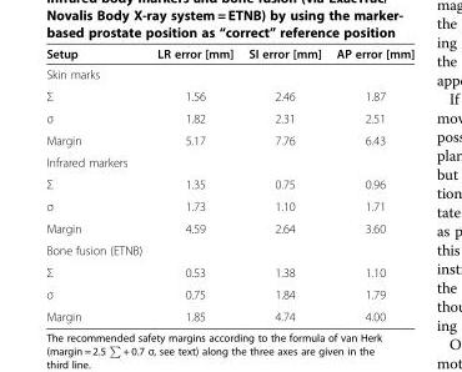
<table><thead><tr><td>Setup</td><td>LR error [mm]</td><td>SI error [mm]</td><td>AP error [mm]</td></tr></thead><tbody><tr><td colspan="4">Skin marks</td></tr><tr><td>Σ</td><td>1.56</td><td>2.46</td><td>1.87</td></tr><tr><td>σ</td><td>1.82</td><td>2.31</td><td>2.51</td></tr><tr><td>Margin</td><td>5.17</td><td>7.76</td><td>6.43</td></tr><tr><td colspan="4">Infrared markers</td></tr><tr><td>Σ</td><td>1.35</td><td>0.75</td><td>0.96</td></tr><tr><td>σ</td><td>1.73</td><td>1.10</td><td>1.71</td></tr><tr><td>Margin</td><td>4.59</td><td>2.64</td><td>3.60</td></tr><tr><td colspan="4">Bone fusion (ETNB)</td></tr><tr><td>Σ</td><td>0.53</td><td>1.38</td><td>1.10</td></tr><tr><td>σ</td><td>0.75</td><td>1.84</td><td>1.79</td></tr><tr><td>Margin</td><td>1.85</td><td>4.74</td><td>4.00</td></tr></tbody></table>